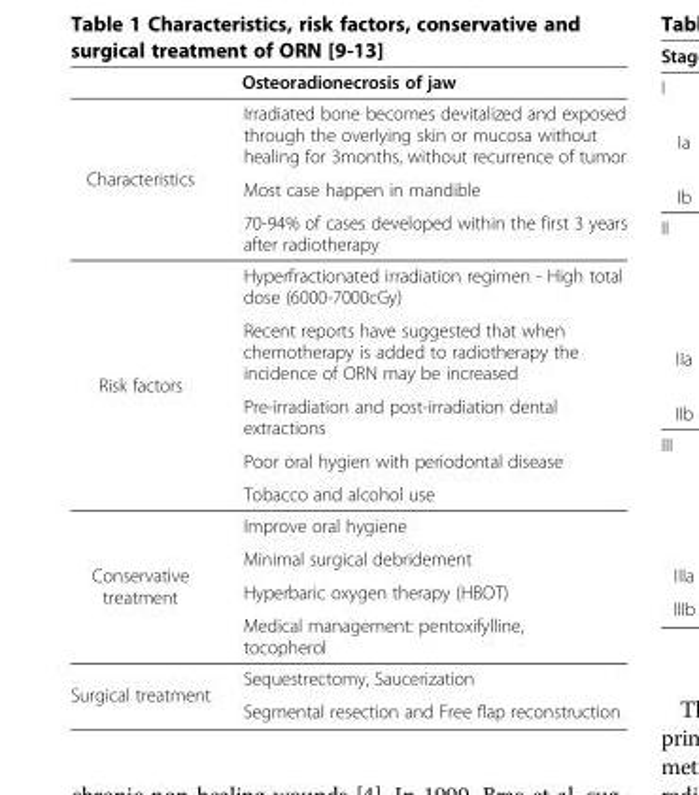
<table><thead><tr><td></td><td>Osteoradionecrosis of jaw</td></tr></thead><tbody><tr><td rowspan="3">Characteristics</td><td>Irradiated bone becomes devitalized and exposed through the overlying skin or mucosa without healing for 3months, without recurrence of tumor</td></tr><tr><td>Most case happen in mandible</td></tr><tr><td>70-94% of cases developed within the first 3 years after radiotherapy</td></tr><tr><td rowspan="5">Risk factors</td><td>Hyperfractionated irradiation regimen - High total dose (6000-7000cGy)</td></tr><tr><td>Recent reports have suggested that when chemotherapy is added to radiotherapy the incidence of ORN may be increased</td></tr><tr><td>Pre-irradiation and post-irradiation dental extractions</td></tr><tr><td>Poor oral hygien with periodontal disease</td></tr><tr><td>Tobacco and alcohol use</td></tr><tr><td rowspan="4">Conservative treatment</td><td>Improve oral hygiene</td></tr><tr><td>Minimal surgical debridement</td></tr><tr><td>Hyperbaric oxygen therapy (HBOT)</td></tr><tr><td>Medical management: pentoxifylline, tocopherol</td></tr><tr><td rowspan="2">Surgical treatment</td><td>Sequestrectomy, Saucerization</td></tr><tr><td>Segmental resection and Free flap reconstruction</td></tr></tbody></table>